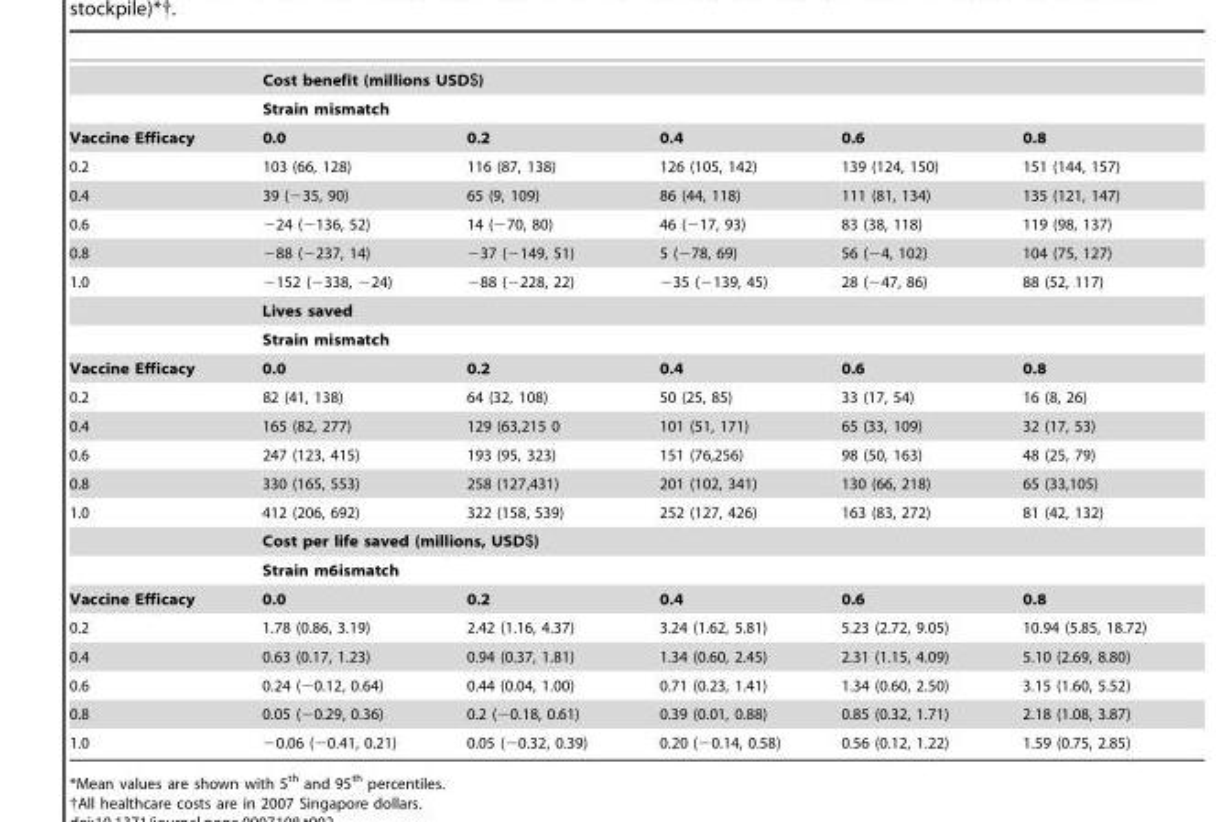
<table><thead><tr><td rowspan="3">Vaccine Efficacy</td><td rowspan="2" colspan="5">Cost benefit (millions USD$) Strain mismatch</td></tr><tr></tr><tr><td>0.0</td><td>0.2</td><td>0.4</td><td>0.6</td><td>0.8</td></tr></thead><tbody><tr><td>0.2</td><td>103 (66, 128)</td><td>116 (87, 138)</td><td>126 (105, 142)</td><td>139 (124, 150)</td><td>151 (144, 157)</td></tr><tr><td>0.4</td><td>39 (−35, 90)</td><td>65 (9, 109)</td><td>86 (44, 118)</td><td>111 (81, 134)</td><td>135 (121, 147)</td></tr><tr><td>0.6</td><td>−24 (−136, 52)</td><td>14 (−70, 80)</td><td>46 (−17, 93)</td><td>83 (38, 118)</td><td>119 (98, 137)</td></tr><tr><td>0.8</td><td>−88 (−237, 14)</td><td>−37 (−149, 51)</td><td>5 (−78, 69)</td><td>56 (−4, 102)</td><td>104 (75, 127)</td></tr><tr><td rowspan="3">1.0</td><td>−152 (−338, −24)</td><td>−88 (−228, 22)</td><td>−35 (−139, 45)</td><td>28 (−47, 86)</td><td>88 (52, 117)</td></tr><tr><td colspan="5">Lives saved</td></tr><tr><td colspan="5">Strain mismatch</td></tr><tr><td>Vaccine Efficacy</td><td>0.0</td><td>0.2</td><td>0.4</td><td>0.6</td><td>0.8</td></tr><tr><td>0.2</td><td>82 (41, 138)</td><td>64 (32, 108)</td><td>50 (25, 85)</td><td>33 (17, 54)</td><td>16 (8, 26)</td></tr><tr><td>0.4</td><td>165 (82, 277)</td><td>129 (63,215 0</td><td>101 (51, 171)</td><td>65 (33, 109)</td><td>32 (17, 53)</td></tr><tr><td>0.6</td><td>247 (123, 415)</td><td>193 (95, 323)</td><td>151 (76,256)</td><td>98 (50, 163)</td><td>48 (25, 79)</td></tr><tr><td>0.8</td><td>330 (165, 553)</td><td>258 (127,431)</td><td>201 (102, 341)</td><td>130 (66, 218)</td><td>65 (33,105)</td></tr><tr><td rowspan="3">1.0</td><td>412 (206, 692)</td><td>322 (158, 539)</td><td>252 (127, 426)</td><td>163 (83, 272)</td><td>81 (42, 132)</td></tr><tr><td colspan="5">Cost per life saved (millions, USD$)</td></tr><tr><td colspan="5">Strain m6ismatch</td></tr><tr><td>Vaccine Efficacy</td><td>0.0</td><td>0.2</td><td>0.4</td><td>0.6</td><td>0.8</td></tr><tr><td>0.2</td><td>1.78 (0.86, 3.19)</td><td>2.42 (1.16, 4.37)</td><td>3.24 (1.62, 5.81)</td><td>5.23 (2.72, 9.05)</td><td>10.94 (5.85, 18.72)</td></tr><tr><td>0.4</td><td>0.63 (0.17, 1.23)</td><td>0.94 (0.37, 1.81)</td><td>1.34 (0.60, 2.45)</td><td>2.31 (1.15, 4.09)</td><td>5.10 (2.69, 8.80)</td></tr><tr><td>0.6</td><td>0.24 (−0.12, 0.64)</td><td>0.44 (0.04, 1.00)</td><td>0.71 (0.23, 1.41)</td><td>1.34 (0.60, 2.50)</td><td>3.15 (1.60, 5.52)</td></tr><tr><td>0.8</td><td>0.05 (−0.29, 0.36)</td><td>0.2 (−0.18, 0.61)</td><td>0.39 (0.01, 0.88)</td><td>0.85 (0.32, 1.71)</td><td>2.18 (1.08, 3.87)</td></tr><tr><td>1.0</td><td>−0.06 (−0.41, 0.21)</td><td>0.05 (−0.32, 0.39)</td><td>0.20 (−0.14, 0.58)</td><td>0.56 (0.12, 1.22)</td><td>1.59 (0.75, 2.85)</td></tr></tbody></table>